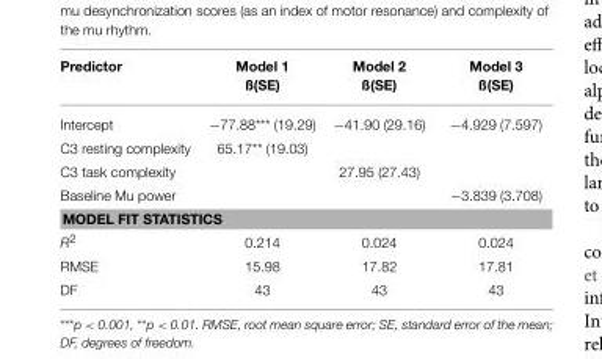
<table><thead><tr><td>Predictor</td><td>Model 1 ß(SE)</td><td>Model 2 ß(SE)</td><td>Model 3 ß(SE)</td></tr></thead><tbody><tr><td>Intercept</td><td>−77.88*** (19.29)</td><td>−41.90 (29.16)</td><td>−4.929 (7.597)</td></tr><tr><td>C3 resting complexity</td><td>65.17** (19.03)</td><td></td><td></td></tr><tr><td>C3 task complexity</td><td></td><td>27.95 (27.43)</td><td></td></tr><tr><td>Baseline Mu power</td><td></td><td></td><td>−3.839 (3.708)</td></tr><tr><td colspan="4">MODEL FIT STATISTICS</td></tr><tr><td>R<sup>2</sup></td><td>0.214</td><td>0.024</td><td>0.024</td></tr><tr><td>RMSE</td><td>15.98</td><td>17.82</td><td>17.81</td></tr><tr><td>DF</td><td>43</td><td>43</td><td>43</td></tr></tbody></table>